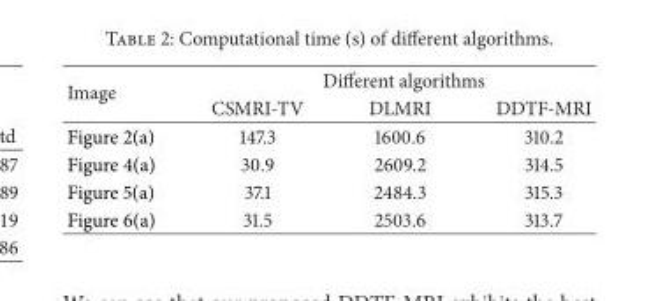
<table><thead><tr><td rowspan="2">Image</td><td colspan="3">Different algorithms</td></tr><tr><td>CSMRI-TV</td><td>DLMRI</td><td>DDTF-MRI</td></tr></thead><tbody><tr><td>Figure 2(a)</td><td>147.3</td><td>1600.6</td><td>310.2</td></tr><tr><td>Figure 4(a)</td><td>30.9</td><td>2609.2</td><td>314.5</td></tr><tr><td>Figure 5(a)</td><td>37.1</td><td>2484.3</td><td>315.3</td></tr><tr><td>Figure 6(a)</td><td>31.5</td><td>2503.6</td><td>313.7</td></tr></tbody></table>